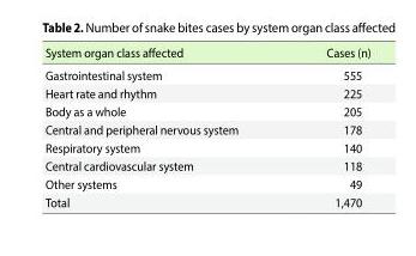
<table><thead><tr><td>System organ class affected</td><td>Cases (n)</td></tr></thead><tbody><tr><td>Gastrointestinal system</td><td>555</td></tr><tr><td>Heart rate and rhythm</td><td>225</td></tr><tr><td>Body as a whole</td><td>205</td></tr><tr><td>Central and peripheral nervous system</td><td>178</td></tr><tr><td>Respiratory system</td><td>140</td></tr><tr><td>Central cardiovascular system</td><td>118</td></tr><tr><td>Other systems</td><td>49</td></tr><tr><td>Total</td><td>1,470</td></tr></tbody></table>